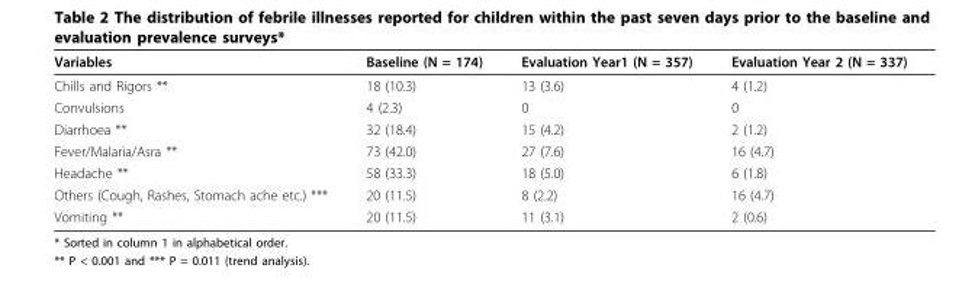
<table><thead><tr><td>Variables</td><td>Baseline (N = 174)</td><td>Evaluation Year1 (N = 357)</td><td>Evaluation Year 2 (N = 337)</td></tr></thead><tbody><tr><td>Chills and Rigors **</td><td>18 (10.3)</td><td>13 (3.6)</td><td>4 (1.2)</td></tr><tr><td>Convulsions</td><td>4 (2.3)</td><td>0</td><td>0</td></tr><tr><td>Diarrhoea **</td><td>32 (18.4)</td><td>15 (4.2)</td><td>2 (1.2)</td></tr><tr><td>Fever/Malaria/Asra **</td><td>73 (42.0)</td><td>27 (7.6)</td><td>16 (4.7)</td></tr><tr><td>Headache **</td><td>58 (33.3)</td><td>18 (5.0)</td><td>6 (1.8)</td></tr><tr><td>Others (Cough, Rashes, Stomach ache etc.) ***</td><td>20 (11.5)</td><td>8 (2.2)</td><td>16 (4.7)</td></tr><tr><td>Vomiting **</td><td>20 (11.5)</td><td>11 (3.1)</td><td>2 (0.6)</td></tr></tbody></table>